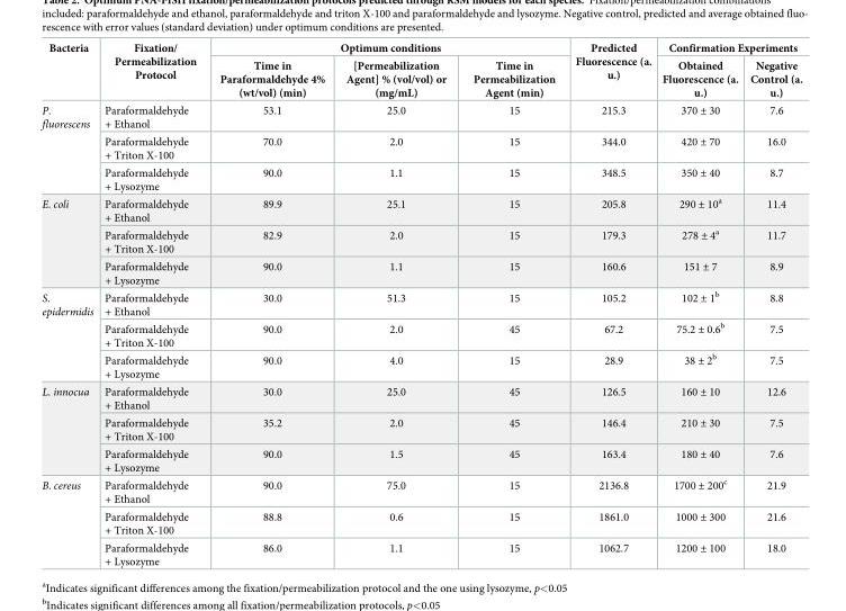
<table><thead><tr><td rowspan="2">Bacteria</td><td rowspan="2">Fixation/ Permeabilization Protocol</td><td colspan="3">Optimum conditions</td><td rowspan="2">Predicted Fluorescence (a. u.)</td><td colspan="2">Confirmation Experiments</td></tr><tr><td>Time in Paraformaldehyde 4% (wt/vol) (min)</td><td>[Permeabilization Agent] % (vol/vol) or (mg/mL)</td><td>Time in Permeabilization Agent (min)</td><td>Obtained Fluorescence (a. u.)</td><td>Negative Control (a. u.)</td></tr></thead><tbody><tr><td rowspan="3">P. fluorescens</td><td>Paraformaldehyde + Ethanol</td><td>53.1</td><td>25.0</td><td>15</td><td>215.3</td><td>370 ± 30</td><td>7.6</td></tr><tr><td>Paraformaldehyde + Triton X-100</td><td>70.0</td><td>2.0</td><td>15</td><td>344.0</td><td>420 ± 70</td><td>16.0</td></tr><tr><td>Paraformaldehyde + Lysozyme</td><td>90.0</td><td>1.1</td><td>15</td><td>348.5</td><td>350 ± 40</td><td>8.7</td></tr><tr><td rowspan="3">E. coli</td><td>Paraformaldehyde + Ethanol</td><td>89.9</td><td>25.1</td><td>15</td><td>205.8</td><td>290 ± 10<sup>a</sup></td><td>11.4</td></tr><tr><td>Paraformaldehyde + Triton X-100</td><td>82.9</td><td>2.0</td><td>15</td><td>179.3</td><td>278 ± 4<sup>a</sup></td><td>11.7</td></tr><tr><td>Paraformaldehyde + Lysozyme</td><td>90.0</td><td>1.1</td><td>15</td><td>160.6</td><td>151 ± 7</td><td>8.9</td></tr><tr><td rowspan="3">S. epidermidis</td><td>Paraformaldehyde + Ethanol</td><td>30.0</td><td>51.3</td><td>15</td><td>105.2</td><td>102 ± 1<sup>b</sup></td><td>8.8</td></tr><tr><td>Paraformaldehyde + Triton X-100</td><td>90.0</td><td>2.0</td><td>45</td><td>67.2</td><td>75.2 ± 0.6<sup>b</sup></td><td>7.5</td></tr><tr><td>Paraformaldehyde + Lysozyme</td><td>90.0</td><td>4.0</td><td>15</td><td>28.9</td><td>38 ± 2<sup>b</sup></td><td>7.5</td></tr><tr><td rowspan="3">L. innocua</td><td>Paraformaldehyde + Ethanol</td><td>30.0</td><td>25.0</td><td>45</td><td>126.5</td><td>160 ± 10</td><td>12.6</td></tr><tr><td>Paraformaldehyde + Triton X-100</td><td>35.2</td><td>2.0</td><td>45</td><td>146.4</td><td>210 ± 30</td><td>7.5</td></tr><tr><td>Paraformaldehyde + Lysozyme</td><td>90.0</td><td>1.5</td><td>45</td><td>163.4</td><td>180 ± 40</td><td>7.6</td></tr><tr><td rowspan="3">B. cereus</td><td>Paraformaldehyde + Ethanol</td><td>90.0</td><td>75.0</td><td>15</td><td>2136.8</td><td>1700 ± 200<sup>c</sup></td><td>21.9</td></tr><tr><td>Paraformaldehyde + Triton X-100</td><td>88.8</td><td>0.6</td><td>15</td><td>1861.0</td><td>1000 ± 300</td><td>21.6</td></tr><tr><td>Paraformaldehyde + Lysozyme</td><td>86.0</td><td>1.1</td><td>15</td><td>1062.7</td><td>1200 ± 100</td><td>18.0</td></tr></tbody></table>